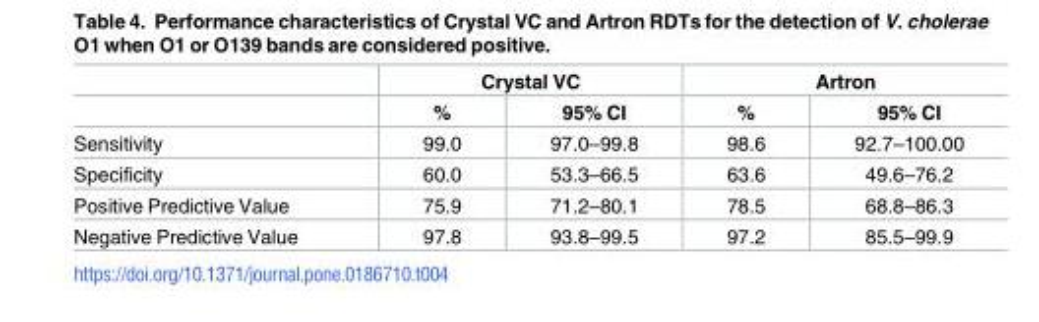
<table><thead><tr><td rowspan="2"></td><td colspan="2">Crystal VC</td><td colspan="2">Artron</td></tr><tr><td>%</td><td>95% CI</td><td>%</td><td>95% CI</td></tr></thead><tbody><tr><td>Sensitivity</td><td>99.0</td><td>97.0–99.8</td><td>98.6</td><td>92.7–100.00</td></tr><tr><td>Specificity</td><td>60.0</td><td>53.3–66.5</td><td>63.6</td><td>49.6–76.2</td></tr><tr><td>Positive Predictive Value</td><td>75.9</td><td>71.2–80.1</td><td>78.5</td><td>68.8–86.3</td></tr><tr><td>Negative Predictive Value</td><td>97.8</td><td>93.8–99.5</td><td>97.2</td><td>85.5–99.9</td></tr></tbody></table>